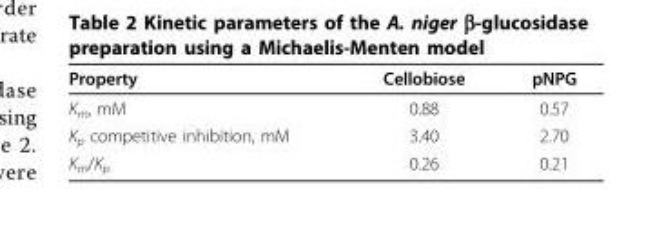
<table><thead><tr><td>Property</td><td>Cellobiose</td><td>pNPG</td></tr></thead><tbody><tr><td>K<sub>m</sub>, mM</td><td>0.88</td><td>0.57</td></tr><tr><td>K<sub>p</sub> competitive inhibition, mM</td><td>3.40</td><td>2.70</td></tr><tr><td>K<sub>m</sub>/K<sub>p</sub></td><td>0.26</td><td>0.21</td></tr></tbody></table>